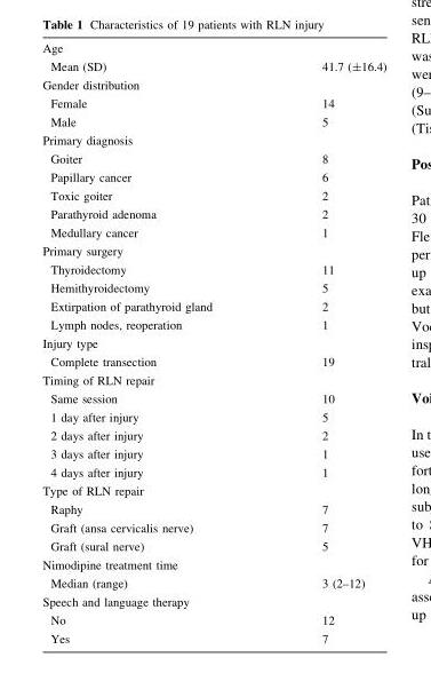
<table><tbody><tr><td colspan="2">Age</td></tr><tr><td>Mean (SD)</td><td>41.7 (±16.4)</td></tr><tr><td colspan="2">Gender distribution</td></tr><tr><td>Female</td><td>14</td></tr><tr><td>Male</td><td>5</td></tr><tr><td colspan="2">Primary diagnosis</td></tr><tr><td>Goiter</td><td>8</td></tr><tr><td>Papillary cancer</td><td>6</td></tr><tr><td>Toxic goiter</td><td>2</td></tr><tr><td>Parathyroid adenoma</td><td>2</td></tr><tr><td>Medullary cancer</td><td>1</td></tr><tr><td colspan="2">Primary surgery</td></tr><tr><td>Thyroidectomy</td><td>11</td></tr><tr><td>Hemithyroidectomy</td><td>5</td></tr><tr><td>Extirpation of parathyroid gland</td><td>2</td></tr><tr><td>Lymph nodes, reoperation</td><td>1</td></tr><tr><td colspan="2">Injury type</td></tr><tr><td>Complete transection</td><td>19</td></tr><tr><td colspan="2">Timing of RLN repair</td></tr><tr><td>Same session</td><td>10</td></tr><tr><td>1 day after injury</td><td>5</td></tr><tr><td>2 days after injury</td><td>2</td></tr><tr><td>3 days after injury</td><td>1</td></tr><tr><td>4 days after injury</td><td>1</td></tr><tr><td colspan="2">Type of RLN repair</td></tr><tr><td>Raphy</td><td>7</td></tr><tr><td>Graft (ansa cervicalis nerve)</td><td>7</td></tr><tr><td>Graft (sural nerve)</td><td>5</td></tr><tr><td colspan="2">Nimodipine treatment time</td></tr><tr><td>Median (range)</td><td>3 (2–12)</td></tr><tr><td colspan="2">Speech and language therapy</td></tr><tr><td>No</td><td>12</td></tr><tr><td>Yes</td><td>7</td></tr></tbody></table>